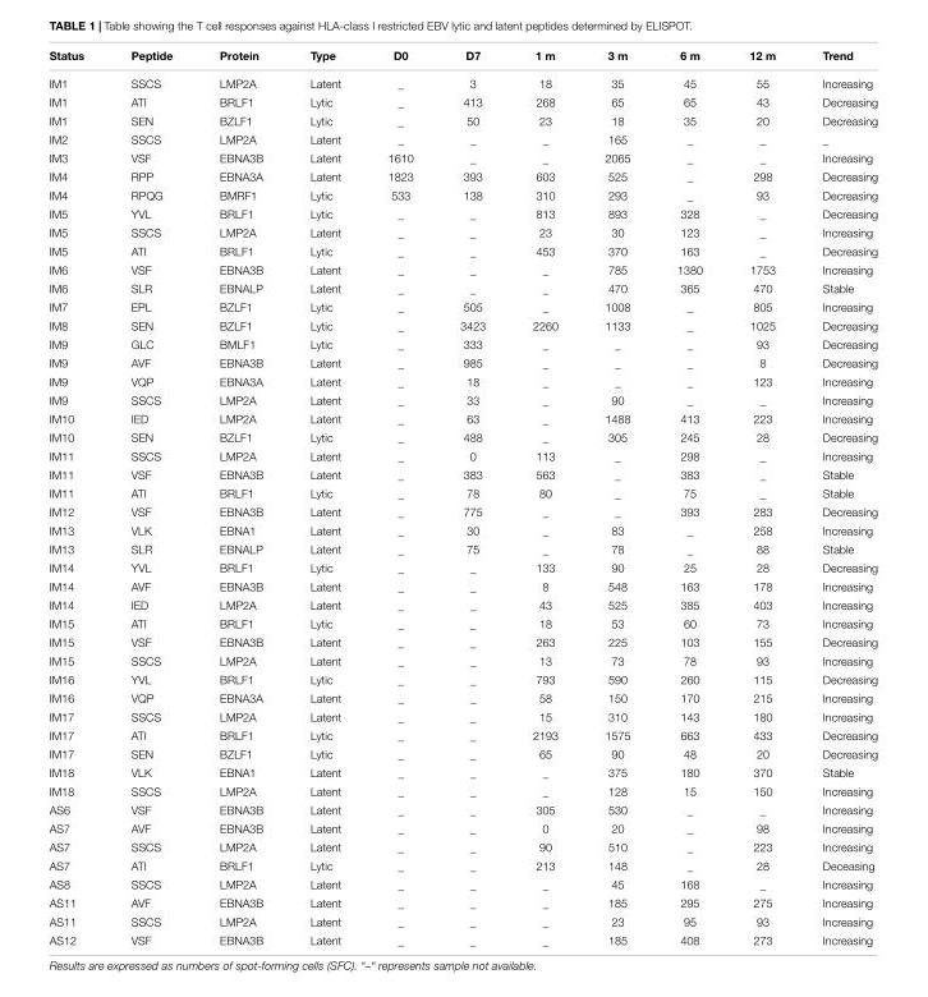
<table><thead><tr><td>Status</td><td>Peptide</td><td>Protein</td><td>Type</td><td>D0</td><td>D7</td><td>1 m</td><td>3 m</td><td>6 m</td><td>12 m</td><td>Trend</td></tr></thead><tbody><tr><td>IM1</td><td>SSCS</td><td>LMP2A</td><td>Latent</td><td>_</td><td>3</td><td>18</td><td>35</td><td>45</td><td>55</td><td>Increasing</td></tr><tr><td>IM1</td><td>ATI</td><td>BRLF1</td><td>Lytic</td><td>_</td><td>413</td><td>268</td><td>65</td><td>65</td><td>43</td><td>Decreasing</td></tr><tr><td>IM1</td><td>SEN</td><td>BZLF1</td><td>Lytic</td><td>_</td><td>50</td><td>23</td><td>18</td><td>35</td><td>20</td><td>Decreasing</td></tr><tr><td>IM2</td><td>SSCS</td><td>LMP2A</td><td>Latent</td><td>_</td><td>_</td><td>_</td><td>165</td><td>_</td><td>_</td><td>_</td></tr><tr><td>IM3</td><td>VSF</td><td>EBNA3B</td><td>Latent</td><td>1610</td><td>_</td><td>_</td><td>2065</td><td>_</td><td>_</td><td>Increasing</td></tr><tr><td>IM4</td><td>RPP</td><td>EBNA3A</td><td>Latent</td><td>1823</td><td>393</td><td>603</td><td>525</td><td>_</td><td>298</td><td>Decreasing</td></tr><tr><td>IM4</td><td>RPQG</td><td>BMRF1</td><td>Lytic</td><td>533</td><td>138</td><td>310</td><td>293</td><td>_</td><td>93</td><td>Decreasing</td></tr><tr><td>IM5</td><td>YVL</td><td>BRLF1</td><td>Lytic</td><td>_</td><td>_</td><td>813</td><td>893</td><td>328</td><td>_</td><td>Decreasing</td></tr><tr><td>IM5</td><td>SSCS</td><td>LMP2A</td><td>Latent</td><td>_</td><td>_</td><td>23</td><td>30</td><td>123</td><td>_</td><td>Increasing</td></tr><tr><td>IM5</td><td>ATI</td><td>BRLF1</td><td>Lytic</td><td>_</td><td>_</td><td>453</td><td>370</td><td>163</td><td>_</td><td>Decreasing</td></tr><tr><td>IM6</td><td>VSF</td><td>EBNA3B</td><td>Latent</td><td>_</td><td>_</td><td>_</td><td>785</td><td>1380</td><td>1753</td><td>Increasing</td></tr><tr><td>IM6</td><td>SLR</td><td>EBNALP</td><td>Latent</td><td>_</td><td>_</td><td>_</td><td>470</td><td>365</td><td>470</td><td>Stable</td></tr><tr><td>IM7</td><td>EPL</td><td>BZLF1</td><td>Lytic</td><td>_</td><td>505</td><td>_</td><td>1008</td><td>_</td><td>805</td><td>Increasing</td></tr><tr><td>IM8</td><td>SEN</td><td>BZLF1</td><td>Lytic</td><td>_</td><td>3423</td><td>2260</td><td>1133</td><td>_</td><td>1025</td><td>Decreasing</td></tr><tr><td>IM9</td><td>GLC</td><td>BMLF1</td><td>Lytic</td><td>_</td><td>333</td><td>_</td><td>_</td><td>_</td><td>93</td><td>Decreasing</td></tr><tr><td>IM9</td><td>AVF</td><td>EBNA3B</td><td>Latent</td><td>_</td><td>985</td><td>_</td><td>_</td><td>_</td><td>8</td><td>Decreasing</td></tr><tr><td>IM9</td><td>VQP</td><td>EBNA3A</td><td>Latent</td><td>_</td><td>18</td><td>_</td><td>_</td><td>_</td><td>123</td><td>Increasing</td></tr><tr><td>IM9</td><td>SSCS</td><td>LMP2A</td><td>Latent</td><td>_</td><td>33</td><td>_</td><td>90</td><td>_</td><td>_</td><td>Increasing</td></tr><tr><td>IM10</td><td>IED</td><td>LMP2A</td><td>Latent</td><td>_</td><td>63</td><td>_</td><td>1488</td><td>413</td><td>223</td><td>Increasing</td></tr><tr><td>IM10</td><td>SEN</td><td>BZLF1</td><td>Lytic</td><td>_</td><td>488</td><td>_</td><td>305</td><td>245</td><td>28</td><td>Decreasing</td></tr><tr><td>IM11</td><td>SSCS</td><td>LMP2A</td><td>Latent</td><td>_</td><td>0</td><td>113</td><td>_</td><td>298</td><td>_</td><td>Increasing</td></tr><tr><td>IM11</td><td>VSF</td><td>EBNA3B</td><td>Latent</td><td>_</td><td>383</td><td>563</td><td>_</td><td>383</td><td>_</td><td>Stable</td></tr><tr><td>IM11</td><td>ATI</td><td>BRLF1</td><td>Lytic</td><td>_</td><td>78</td><td>80</td><td>_</td><td>75</td><td>_</td><td>Stable</td></tr><tr><td>IM12</td><td>VSF</td><td>EBNA3B</td><td>Latent</td><td>_</td><td>775</td><td>_</td><td>_</td><td>393</td><td>283</td><td>Decreasing</td></tr><tr><td>IM13</td><td>VLK</td><td>EBNA1</td><td>Latent</td><td>_</td><td>30</td><td>_</td><td>83</td><td>_</td><td>258</td><td>Increasing</td></tr><tr><td>IM13</td><td>SLR</td><td>EBNALP</td><td>Latent</td><td>_</td><td>75</td><td>_</td><td>78</td><td>_</td><td>88</td><td>Stable</td></tr><tr><td>IM14</td><td>YVL</td><td>BRLF1</td><td>Lytic</td><td>_</td><td>_</td><td>133</td><td>90</td><td>25</td><td>28</td><td>Decreasing</td></tr><tr><td>IM14</td><td>AVF</td><td>EBNA3B</td><td>Latent</td><td>_</td><td>_</td><td>8</td><td>548</td><td>163</td><td>178</td><td>Increasing</td></tr><tr><td>IM14</td><td>IED</td><td>LMP2A</td><td>Latent</td><td>_</td><td>_</td><td>43</td><td>525</td><td>385</td><td>403</td><td>Increasing</td></tr><tr><td>IM15</td><td>ATI</td><td>BRLF1</td><td>Lytic</td><td>_</td><td>_</td><td>18</td><td>53</td><td>60</td><td>73</td><td>Increasing</td></tr><tr><td>IM15</td><td>VSF</td><td>EBNA3B</td><td>Latent</td><td>_</td><td>_</td><td>263</td><td>225</td><td>103</td><td>155</td><td>Decreasing</td></tr><tr><td>IM15</td><td>SSCS</td><td>LMP2A</td><td>Latent</td><td>_</td><td>_</td><td>13</td><td>73</td><td>78</td><td>93</td><td>Increasing</td></tr><tr><td>IM16</td><td>YVL</td><td>BRLF1</td><td>Lytic</td><td>_</td><td>_</td><td>793</td><td>590</td><td>260</td><td>115</td><td>Decreasing</td></tr><tr><td>IM16</td><td>VQP</td><td>EBNA3A</td><td>Latent</td><td>_</td><td>_</td><td>58</td><td>150</td><td>170</td><td>215</td><td>Increasing</td></tr><tr><td>IM17</td><td>SSCS</td><td>LMP2A</td><td>Latent</td><td>_</td><td>_</td><td>15</td><td>310</td><td>143</td><td>180</td><td>Increasing</td></tr><tr><td>IM17</td><td>ATI</td><td>BRLF1</td><td>Lytic</td><td>_</td><td>_</td><td>2193</td><td>1575</td><td>663</td><td>433</td><td>Decreasing</td></tr><tr><td>IM17</td><td>SEN</td><td>BZLF1</td><td>Lytic</td><td>_</td><td>_</td><td>65</td><td>90</td><td>48</td><td>20</td><td>Decreasing</td></tr><tr><td>IM18</td><td>VLK</td><td>EBNA1</td><td>Latent</td><td>_</td><td>_</td><td>_</td><td>375</td><td>180</td><td>370</td><td>Stable</td></tr><tr><td>IM18</td><td>SSCS</td><td>LMP2A</td><td>Latent</td><td>_</td><td>_</td><td>_</td><td>128</td><td>15</td><td>150</td><td>Increasing</td></tr><tr><td>AS6</td><td>VSF</td><td>EBNA3B</td><td>Latent</td><td>_</td><td>_</td><td>305</td><td>530</td><td>_</td><td>_</td><td>Increasing</td></tr><tr><td>AS7</td><td>AVF</td><td>EBNA3B</td><td>Latent</td><td>_</td><td>_</td><td>0</td><td>20</td><td>_</td><td>98</td><td>Increasing</td></tr><tr><td>AS7</td><td>SSCS</td><td>LMP2A</td><td>Latent</td><td>_</td><td>_</td><td>90</td><td>510</td><td>_</td><td>223</td><td>Increasing</td></tr><tr><td>AS7</td><td>ATI</td><td>BRLF1</td><td>Lytic</td><td>_</td><td>_</td><td>213</td><td>148</td><td>_</td><td>28</td><td>Deceasing</td></tr><tr><td>AS8</td><td>SSCS</td><td>LMP2A</td><td>Latent</td><td>_</td><td>_</td><td>_</td><td>45</td><td>168</td><td>_</td><td>Increasing</td></tr><tr><td>AS11</td><td>AVF</td><td>EBNA3B</td><td>Latent</td><td>_</td><td>_</td><td>_</td><td>185</td><td>295</td><td>275</td><td>Increasing</td></tr><tr><td>AS11</td><td>SSCS</td><td>LMP2A</td><td>Latent</td><td>_</td><td>_</td><td>_</td><td>23</td><td>95</td><td>93</td><td>Increasing</td></tr><tr><td>AS12</td><td>VSF</td><td>EBNA3B</td><td>Latent</td><td>_</td><td>_</td><td>_</td><td>185</td><td>408</td><td>273</td><td>Increasing</td></tr></tbody></table>